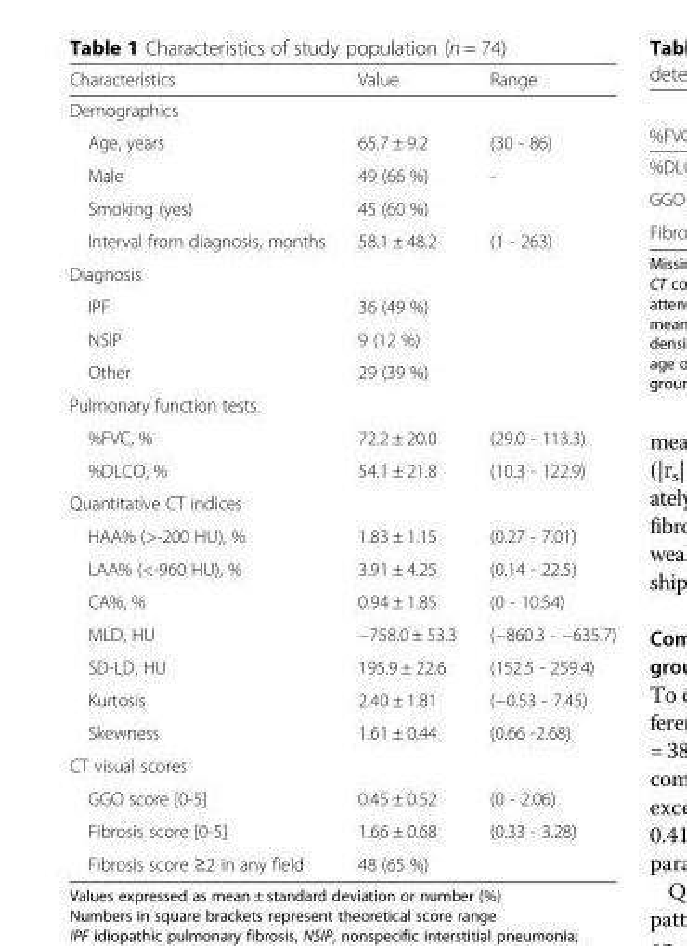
<table><thead><tr><td>Characteristics</td><td>Value</td><td>Range</td></tr></thead><tbody><tr><td colspan="3">Demographics</td></tr><tr><td>Age, years</td><td>65.7 ± 9.2</td><td>(30 - 86)</td></tr><tr><td>Male</td><td>49 (66 %)</td><td>-</td></tr><tr><td>Smoking (yes)</td><td>45 (60 %)</td><td></td></tr><tr><td>Interval from diagnosis, months</td><td>58.1 ± 48.2</td><td>(1 - 263)</td></tr><tr><td colspan="3">Diagnosis</td></tr><tr><td>IPF</td><td>36 (49 %)</td><td></td></tr><tr><td>NSIP</td><td>9 (12 %)</td><td></td></tr><tr><td>Other</td><td>29 (39 %)</td><td></td></tr><tr><td colspan="3">Pulmonary function tests</td></tr><tr><td>%FVC, %</td><td>72.2 ± 20.0</td><td>(29.0 - 113.3)</td></tr><tr><td>%DLCO, %</td><td>54.1 ± 21.8</td><td>(10.3 - 122.9)</td></tr><tr><td colspan="3">Quantitative CT indices</td></tr><tr><td>HAA% (&gt;-200 HU), %</td><td>1.83 ± 1.15</td><td>(0.27 - 7.01)</td></tr><tr><td>LAA% (&lt;-960 HU), %</td><td>3.91 ± 4.25</td><td>(0.14 - 22.5)</td></tr><tr><td>CA%, %</td><td>0.94 ± 1.85</td><td>(0 - 10.54)</td></tr><tr><td>MLD, HU</td><td>−758.0 ± 53.3</td><td>(−860.3 - −635.7)</td></tr><tr><td>SD-LD, HU</td><td>195.9 ± 22.6</td><td>(152.5 - 259.4)</td></tr><tr><td>Kurtosis</td><td>2.40 ± 1.81</td><td>(−0.53 - 7.45)</td></tr><tr><td>Skewness</td><td>1.61 ± 0.44</td><td>(0.66 -2.68)</td></tr><tr><td colspan="3">CT visual scores</td></tr><tr><td>GGO score [0-5]</td><td>0.45 ± 0.52</td><td>(0 - 2.06)</td></tr><tr><td>Fibrosis score [0-5]</td><td>1.66 ± 0.68</td><td>(0.33 - 3.28)</td></tr><tr><td>Fibrosis score ≥2 in any field</td><td>48 (65 %)</td><td></td></tr></tbody></table>